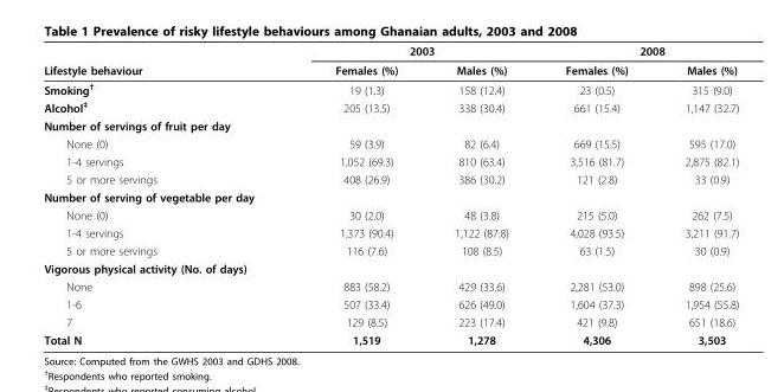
<table><thead><tr><td rowspan="2">Lifestyle behaviour</td><td colspan="2">2003</td><td colspan="2">2008</td></tr><tr><td>Females (%)</td><td>Males (%)</td><td>Females (%)</td><td>Males (%)</td></tr></thead><tbody><tr><td>Smoking<sup>†</sup></td><td>19 (1.3)</td><td>158 (12.4)</td><td>23 (0.5)</td><td>315 (9.0)</td></tr><tr><td>Alcohol<sup>‡</sup></td><td>205 (13.5)</td><td>338 (30.4)</td><td>661 (15.4)</td><td>1,147 (32.7)</td></tr><tr><td colspan="5">Number of servings of fruit per day</td></tr><tr><td>None (0)</td><td>59 (3.9)</td><td>82 (6.4)</td><td>669 (15.5)</td><td>595 (17.0)</td></tr><tr><td>1-4 servings</td><td>1,052 (69.3)</td><td>810 (63.4)</td><td>3,516 (81.7)</td><td>2,875 (82.1)</td></tr><tr><td>5 or more servings</td><td>408 (26.9)</td><td>386 (30.2)</td><td>121 (2.8)</td><td>33 (0.9)</td></tr><tr><td colspan="5">Number of serving of vegetable per day</td></tr><tr><td>None (0)</td><td>30 (2.0)</td><td>48 (3.8)</td><td>215 (5.0)</td><td>262 (7.5)</td></tr><tr><td>1-4 servings</td><td>1,373 (90.4)</td><td>1,122 (87.8)</td><td>4,028 (93.5)</td><td>3,211 (91.7)</td></tr><tr><td>5 or more servings</td><td>116 (7.6)</td><td>108 (8.5)</td><td>63 (1.5)</td><td>30 (0.9)</td></tr><tr><td colspan="5">Vigorous physical activity (No. of days)</td></tr><tr><td>None</td><td>883 (58.2)</td><td>429 (33.6)</td><td>2,281 (53.0)</td><td>898 (25.6)</td></tr><tr><td>1-6</td><td>507 (33.4)</td><td>626 (49.0)</td><td>1,604 (37.3)</td><td>1,954 (55.8)</td></tr><tr><td>7</td><td>129 (8.5)</td><td>223 (17.4)</td><td>421 (9.8)</td><td>651 (18.6)</td></tr><tr><td>Total N</td><td>1,519</td><td>1,278</td><td>4,306</td><td>3,503</td></tr></tbody></table>